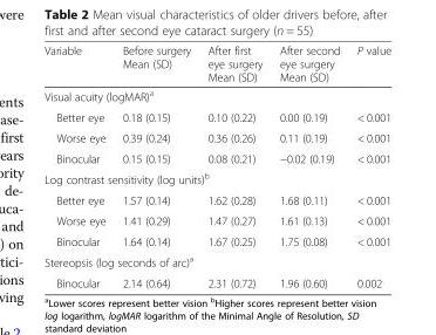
<table><thead><tr><td>Variable</td><td>Before surgery Mean (SD)</td><td>After first eye surgery Mean (SD)</td><td>After second eye surgery Mean (SD)</td><td>P value</td></tr></thead><tbody><tr><td colspan="5">Visual acuity (logMAR)<sup>a</sup></td></tr><tr><td>Better eye</td><td>0.18 (0.15)</td><td>0.10 (0.22)</td><td>0.00 (0.19)</td><td>&lt; 0.001</td></tr><tr><td>Worse eye</td><td>0.39 (0.24)</td><td>0.36 (0.26)</td><td>0.11 (0.19)</td><td>&lt; 0.001</td></tr><tr><td>Binocular</td><td>0.15 (0.15)</td><td>0.08 (0.21)</td><td>−0.02 (0.19)</td><td>&lt; 0.001</td></tr><tr><td colspan="5">Log contrast sensitivity (log units)<sup>b</sup></td></tr><tr><td>Better eye</td><td>1.57 (0.14)</td><td>1.62 (0.28)</td><td>1.68 (0.11)</td><td>&lt; 0.001</td></tr><tr><td>Worse eye</td><td>1.41 (0.29)</td><td>1.47 (0.27)</td><td>1.61 (0.13)</td><td>&lt; 0.001</td></tr><tr><td>Binocular</td><td>1.64 (0.14)</td><td>1.67 (0.25)</td><td>1.75 (0.08)</td><td>&lt; 0.001</td></tr><tr><td colspan="5">Stereopsis (log seconds of arc)<sup>a</sup></td></tr><tr><td>Binocular</td><td>2.14 (0.64)</td><td>2.31 (0.72)</td><td>1.96 (0.60)</td><td>0.002</td></tr></tbody></table>